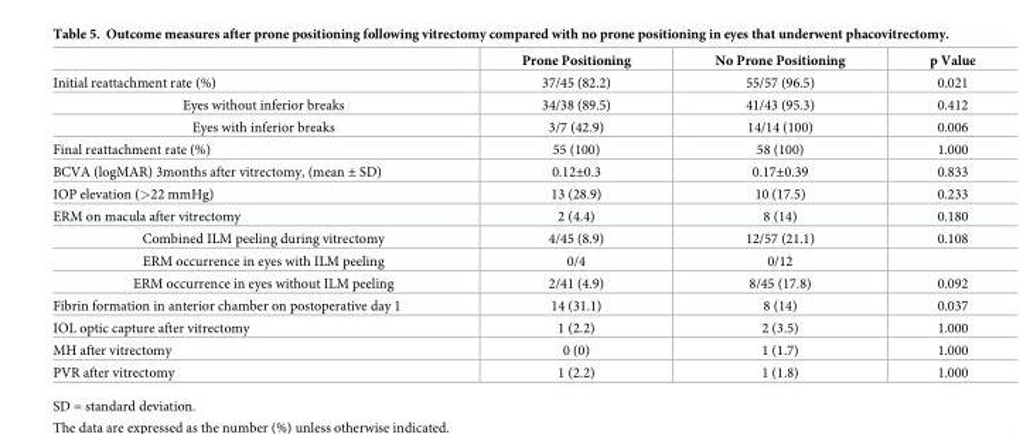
<table><thead><tr><td></td><td>Prone Positioning</td><td>No Prone Positioning</td><td>p Value</td></tr></thead><tbody><tr><td>Initial reattachment rate (%)</td><td>37/45 (82.2)</td><td>55/57 (96.5)</td><td>0.021</td></tr><tr><td>Eyes without inferior breaks</td><td>34/38 (89.5)</td><td>41/43 (95.3)</td><td>0.412</td></tr><tr><td>Eyes with inferior breaks</td><td>3/7 (42.9)</td><td>14/14 (100)</td><td>0.006</td></tr><tr><td>Final reattachment rate (%)</td><td>55 (100)</td><td>58 (100)</td><td>1.000</td></tr><tr><td>BCVA (logMAR) 3months after vitrectomy, (mean ± SD)</td><td>0.12±0.3</td><td>0.17±0.39</td><td>0.833</td></tr><tr><td>IOP elevation (&gt;22 mmHg)</td><td>13 (28.9)</td><td>10 (17.5)</td><td>0.233</td></tr><tr><td>ERM on macula after vitrectomy</td><td>2 (4.4)</td><td>8 (14)</td><td>0.180</td></tr><tr><td>Combined ILM peeling during vitrectomy</td><td>4/45 (8.9)</td><td>12/57 (21.1)</td><td>0.108</td></tr><tr><td>ERM occurrence in eyes with ILM peeling</td><td>0/4</td><td>0/12</td><td></td></tr><tr><td>ERM occurrence in eyes without ILM peeling</td><td>2/41 (4.9)</td><td>8/45 (17.8)</td><td>0.092</td></tr><tr><td>Fibrin formation in anterior chamber on postoperative day 1</td><td>14 (31.1)</td><td>8 (14)</td><td>0.037</td></tr><tr><td>IOL optic capture after vitrectomy</td><td>1 (2.2)</td><td>2 (3.5)</td><td>1.000</td></tr><tr><td>MH after vitrectomy</td><td>0 (0)</td><td>1 (1.7)</td><td>1.000</td></tr><tr><td>PVR after vitrectomy</td><td>1 (2.2)</td><td>1 (1.8)</td><td>1.000</td></tr></tbody></table>